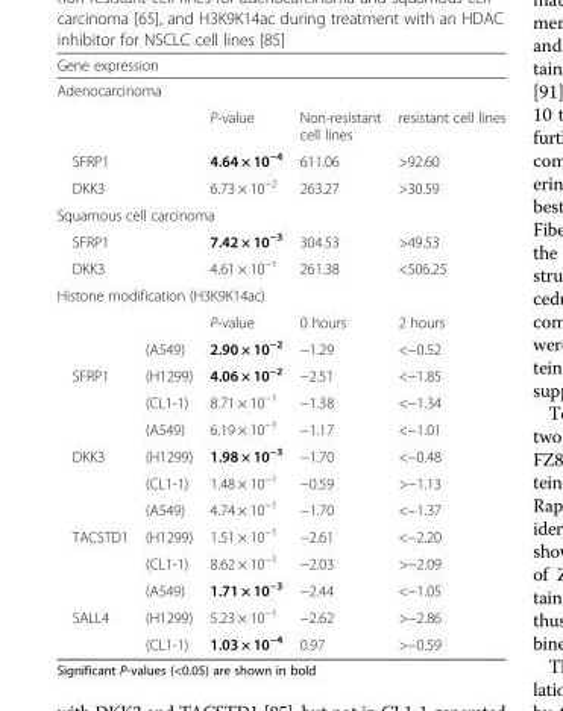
<table><thead><tr><td rowspan="2" colspan="5">Gene expression Adenocarcinoma</td></tr><tr></tr><tr><td></td><td></td><td>P-value</td><td>Non-resistant cell lines</td><td>resistant cell lines</td></tr></thead><tbody><tr><td>SFRP1</td><td></td><td>4.64 × 10<sup>−4</sup></td><td>611.06</td><td>&gt;92.60</td></tr><tr><td>DKK3</td><td></td><td>6.73 × 10<sup>−2</sup></td><td>263.27</td><td>&gt;30.59</td></tr><tr><td colspan="5">Squamous cell carcinoma</td></tr><tr><td>SFRP1</td><td></td><td>7.42 × 10<sup>−3</sup></td><td>304.53</td><td>&gt;49.53</td></tr><tr><td>DKK3</td><td></td><td>4.61 × 10<sup>−1</sup></td><td>261.38</td><td>&lt;506.25</td></tr><tr><td colspan="5">Histone modification (H3K9K14ac)</td></tr><tr><td></td><td></td><td>P-value</td><td>0 hours</td><td>2 hours</td></tr><tr><td></td><td>(A549)</td><td>2.90 × 10<sup>−2</sup></td><td>−1.29</td><td>&lt;−0.52</td></tr><tr><td rowspan="3">SFRP1</td><td>(H1299)</td><td>4.06 × 10<sup>−2</sup></td><td>−2.51</td><td>&lt;−1.85</td></tr><tr><td>(CL1-1)</td><td>8.71 × 10<sup>−1</sup></td><td>−1.38</td><td>&lt;−1.34</td></tr><tr><td>(A549)</td><td>6.19 × 10<sup>−1</sup></td><td>−1.17</td><td>&lt;−1.01</td></tr><tr><td rowspan="3">DKK3</td><td>(H1299)</td><td>1.98 × 10<sup>−3</sup></td><td>−1.70</td><td>&lt;−0.48</td></tr><tr><td>(CL1-1)</td><td>1.48 × 10<sup>−1</sup></td><td>−0.59</td><td>&gt;−1.13</td></tr><tr><td>(A549)</td><td>4.74 × 10<sup>−1</sup></td><td>−1.70</td><td>&lt;−1.37</td></tr><tr><td rowspan="3">TACSTD1</td><td>(H1299)</td><td>1.51 × 10<sup>−1</sup></td><td>−2.61</td><td>&lt;−2.20</td></tr><tr><td>(CL1-1)</td><td>8.62 × 10<sup>−1</sup></td><td>−2.03</td><td>&gt;−2.09</td></tr><tr><td>(A549)</td><td>1.71 × 10<sup>−3</sup></td><td>−2.44</td><td>&lt;−1.05</td></tr><tr><td rowspan="2">SALL4</td><td>(H1299)</td><td>5.23 × 10<sup>−1</sup></td><td>−2.62</td><td>&gt;−2.86</td></tr><tr><td>(CL1-1)</td><td>1.03 × 10<sup>−4</sup></td><td>0.97</td><td>&gt;−0.59</td></tr></tbody></table>